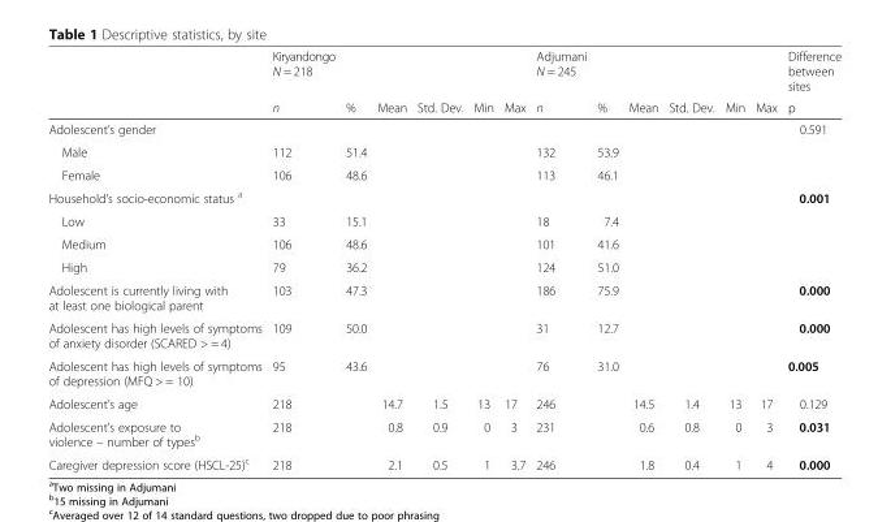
<table><thead><tr><td rowspan="2"></td><td rowspan="2">Kiryandongo N = 218 n</td><td rowspan="2">%</td><td rowspan="2">Mean</td><td rowspan="2">Std. Dev.</td><td rowspan="2">Min</td><td rowspan="2">Max</td><td rowspan="2">Adjumani N = 245 n</td><td rowspan="2">%</td><td rowspan="2">Mean</td><td rowspan="2">Std. Dev.</td><td rowspan="2">Min</td><td rowspan="2">Max</td><td rowspan="2">Difference between sites p</td></tr><tr></tr></thead><tbody><tr><td>Adolescent’s gender</td><td></td><td></td><td></td><td></td><td></td><td></td><td></td><td></td><td></td><td></td><td></td><td></td><td>0.591</td></tr><tr><td>Male</td><td>112</td><td>51.4</td><td></td><td></td><td></td><td></td><td>132</td><td>53.9</td><td></td><td></td><td></td><td></td><td></td></tr><tr><td>Female</td><td>106</td><td>48.6</td><td></td><td></td><td></td><td></td><td>113</td><td>46.1</td><td></td><td></td><td></td><td></td><td></td></tr><tr><td>Household’s socio-economic status <sup>a</sup></td><td></td><td></td><td></td><td></td><td></td><td></td><td></td><td></td><td></td><td></td><td></td><td></td><td>0.001</td></tr><tr><td>Low</td><td>33</td><td>15.1</td><td></td><td></td><td></td><td></td><td>18</td><td>7.4</td><td></td><td></td><td></td><td></td><td></td></tr><tr><td>Medium</td><td>106</td><td>48.6</td><td></td><td></td><td></td><td></td><td>101</td><td>41.6</td><td></td><td></td><td></td><td></td><td></td></tr><tr><td>High</td><td>79</td><td>36.2</td><td></td><td></td><td></td><td></td><td>124</td><td>51.0</td><td></td><td></td><td></td><td></td><td></td></tr><tr><td>Adolescent is currently living with at least one biological parent</td><td>103</td><td>47.3</td><td></td><td></td><td></td><td></td><td>186</td><td>75.9</td><td></td><td></td><td></td><td></td><td>0.000</td></tr><tr><td>Adolescent has high levels of symptoms of anxiety disorder (SCARED &gt; = 4)</td><td>109</td><td>50.0</td><td></td><td></td><td></td><td></td><td>31</td><td>12.7</td><td></td><td></td><td></td><td></td><td>0.000</td></tr><tr><td>Adolescent has high levels of symptoms of depression (MFQ &gt; = 10)</td><td>95</td><td>43.6</td><td></td><td></td><td></td><td></td><td>76</td><td>31.0</td><td></td><td></td><td></td><td></td><td>0.005</td></tr><tr><td>Adolescent’s age</td><td>218</td><td></td><td>14.7</td><td>1.5</td><td>13</td><td>17</td><td>246</td><td></td><td>14.5</td><td>1.4</td><td>13</td><td>17</td><td>0.129</td></tr><tr><td>Adolescent’s exposure to violence – number of types<sup>b</sup></td><td>218</td><td></td><td>0.8</td><td>0.9</td><td>0</td><td>3</td><td>231</td><td></td><td>0.6</td><td>0.8</td><td>0</td><td>3</td><td>0.031</td></tr><tr><td>Caregiver depression score (HSCL-25)<sup>c</sup></td><td>218</td><td></td><td>2.1</td><td>0.5</td><td>1</td><td>3.7</td><td>246</td><td></td><td>1.8</td><td>0.4</td><td>1</td><td>4</td><td>0.000</td></tr></tbody></table>